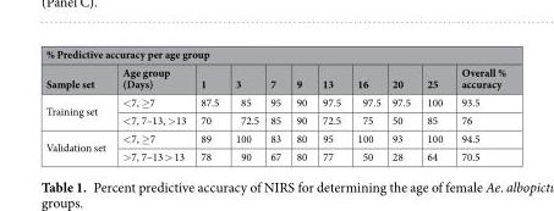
<table><thead><tr><td colspan="11">% Predictive accuracy per age group</td></tr><tr><td>Sample set</td><td>Age group (Days)</td><td>1</td><td>3</td><td>7</td><td>9</td><td>13</td><td>16</td><td>20</td><td>25</td><td>Overall % accuracy</td></tr></thead><tbody><tr><td rowspan="2">Training set</td><td>&lt;7, ≥7</td><td>87.5</td><td>85</td><td>95</td><td>90</td><td>97.5</td><td>97.5</td><td>97.5</td><td>100</td><td>93.5</td></tr><tr><td>&lt;7, 7–13, &gt;13</td><td>70</td><td>72.5</td><td>85</td><td>90</td><td>72.5</td><td>75</td><td>50</td><td>85</td><td>76</td></tr><tr><td rowspan="2">Validation set</td><td>&lt;7, ≥7</td><td>89</td><td>100</td><td>83</td><td>80</td><td>95</td><td>100</td><td>93</td><td>100</td><td>94.5</td></tr><tr><td>&gt;7, 7–13 &gt; 13</td><td>78</td><td>90</td><td>67</td><td>80</td><td>77</td><td>50</td><td>28</td><td>64</td><td>70.5</td></tr></tbody></table>